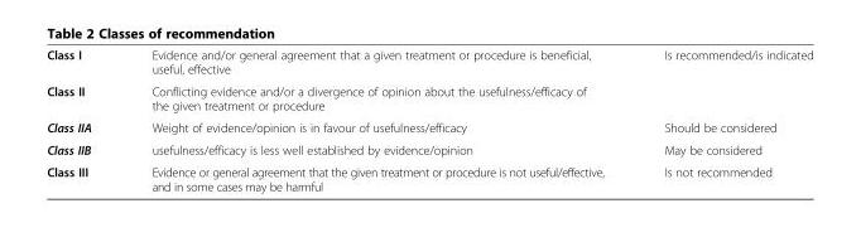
<table><tbody><tr><td>Class I</td><td>Evidence and/or general agreement that a given treatment or procedure is beneficial, useful, effective</td><td>Is recommended/is indicated</td></tr><tr><td>Class II</td><td>Conflicting evidence and/or a divergence of opinion about the usefulness/efficacy of the given treatment or procedure</td><td></td></tr><tr><td>Class IIA</td><td>Weight of evidence/opinion is in favour of usefulness/efficacy</td><td>Should be considered</td></tr><tr><td>Class IIB</td><td>usefulness/efficacy is less well established by evidence/opinion</td><td>May be considered</td></tr><tr><td>Class III</td><td>Evidence or general agreement that the given treatment or procedure is not useful/effective, and in some cases may be harmful</td><td>Is not recommended</td></tr></tbody></table>